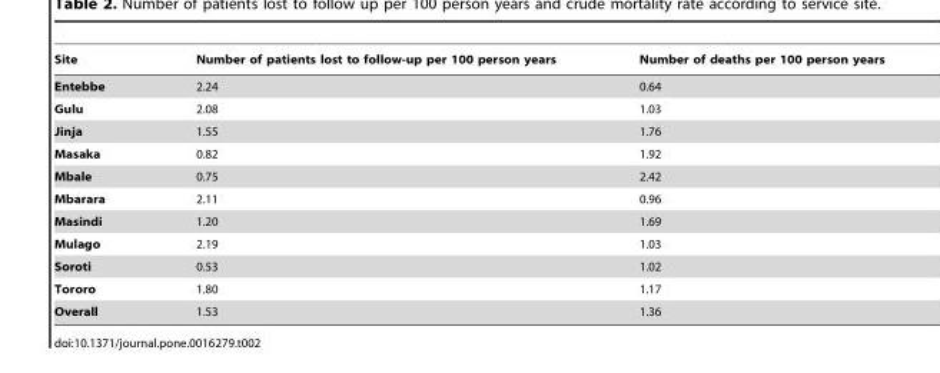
<table><thead><tr><td>Site</td><td>Number of patients lost to follow-up per 100 person years</td><td>Number of deaths per 100 person years</td></tr></thead><tbody><tr><td>Entebbe</td><td>2.24</td><td>0.64</td></tr><tr><td>Gulu</td><td>2.08</td><td>1.03</td></tr><tr><td>Jinja</td><td>1.55</td><td>1.76</td></tr><tr><td>Masaka</td><td>0.82</td><td>1.92</td></tr><tr><td>Mbale</td><td>0.75</td><td>2.42</td></tr><tr><td>Mbarara</td><td>2.11</td><td>0.96</td></tr><tr><td>Masindi</td><td>1.20</td><td>1.69</td></tr><tr><td>Mulago</td><td>2.19</td><td>1.03</td></tr><tr><td>Soroti</td><td>0.53</td><td>1.02</td></tr><tr><td>Tororo</td><td>1.80</td><td>1.17</td></tr><tr><td>Overall</td><td>1.53</td><td>1.36</td></tr></tbody></table>